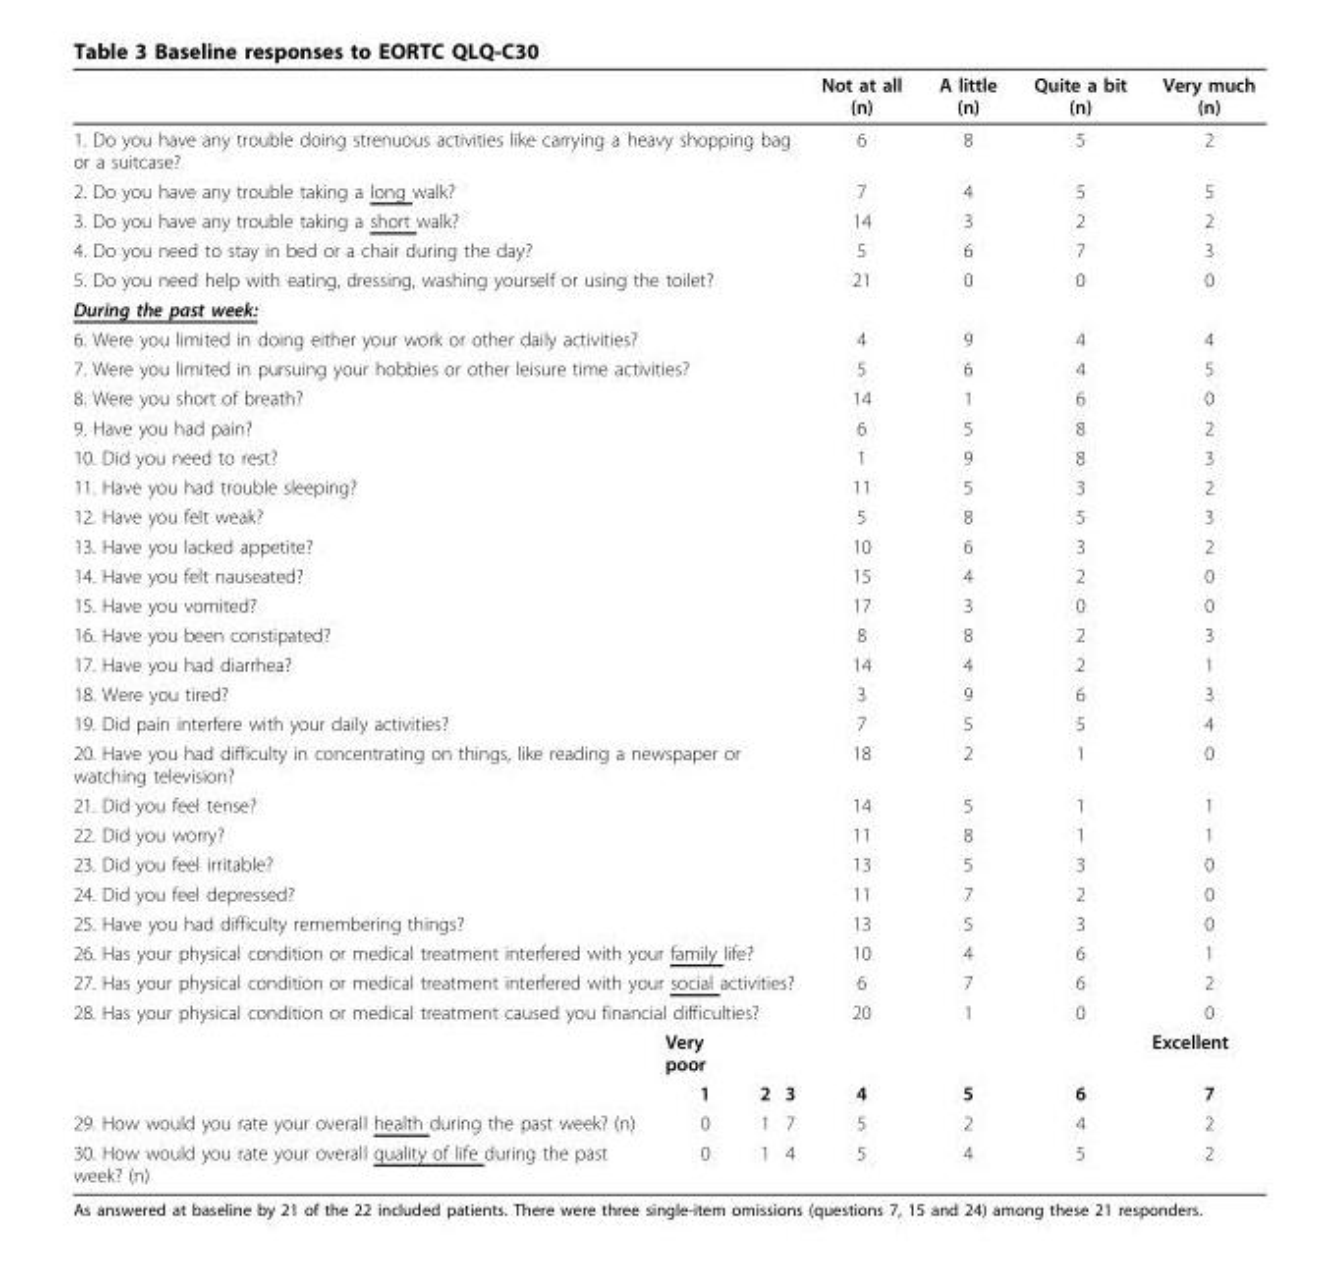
<table><thead><tr><td></td><td></td><td></td><td></td><td>Not at all (n)</td><td>A little (n)</td><td>Quite a bit (n)</td><td>Very much (n)</td></tr></thead><tbody><tr><td colspan="4">1. Do you have any trouble doing strenuous activities like carrying a heavy shopping bag or a suitcase?</td><td>6</td><td>8</td><td>5</td><td>2</td></tr><tr><td colspan="4">2. Do you have any trouble taking a long walk?</td><td>7</td><td>4</td><td>5</td><td>5</td></tr><tr><td colspan="4">3. Do you have any trouble taking a short walk?</td><td>14</td><td>3</td><td>2</td><td>2</td></tr><tr><td colspan="4">4. Do you need to stay in bed or a chair during the day?</td><td>5</td><td>6</td><td>7</td><td>3</td></tr><tr><td colspan="4">5. Do you need help with eating, dressing, washing yourself or using the toilet?</td><td>21</td><td>0</td><td>0</td><td>0</td></tr><tr><td colspan="8">During the past week:</td></tr><tr><td colspan="4">6. Were you limited in doing either your work or other daily activities?</td><td>4</td><td>9</td><td>4</td><td>4</td></tr><tr><td colspan="4">7. Were you limited in pursuing your hobbies or other leisure time activities?</td><td>5</td><td>6</td><td>4</td><td>5</td></tr><tr><td colspan="4">8. Were you short of breath?</td><td>14</td><td>1</td><td>6</td><td>0</td></tr><tr><td colspan="4">9. Have you had pain?</td><td>6</td><td>5</td><td>8</td><td>2</td></tr><tr><td colspan="4">10. Did you need to rest?</td><td>1</td><td>9</td><td>8</td><td>3</td></tr><tr><td colspan="4">11. Have you had trouble sleeping?</td><td>11</td><td>5</td><td>3</td><td>2</td></tr><tr><td colspan="4">12. Have you felt weak?</td><td>5</td><td>8</td><td>5</td><td>3</td></tr><tr><td colspan="4">13. Have you lacked appetite?</td><td>10</td><td>6</td><td>3</td><td>2</td></tr><tr><td colspan="4">14. Have you felt nauseated?</td><td>15</td><td>4</td><td>2</td><td>0</td></tr><tr><td colspan="4">15. Have you vomited?</td><td>17</td><td>3</td><td>0</td><td>0</td></tr><tr><td colspan="4">16. Have you been constipated?</td><td>8</td><td>8</td><td>2</td><td>3</td></tr><tr><td colspan="4">17. Have you had diarrhea?</td><td>14</td><td>4</td><td>2</td><td>1</td></tr><tr><td colspan="4">18. Were you tired?</td><td>3</td><td>9</td><td>6</td><td>3</td></tr><tr><td colspan="4">19. Did pain interfere with your daily activities?</td><td>7</td><td>5</td><td>5</td><td>4</td></tr><tr><td colspan="4">20. Have you had difficulty in concentrating on things, like reading a newspaper or watching television?</td><td>18</td><td>2</td><td>1</td><td>0</td></tr><tr><td colspan="4">21. Did you feel tense?</td><td>14</td><td>5</td><td>1</td><td>1</td></tr><tr><td colspan="4">22. Did you worry?</td><td>11</td><td>8</td><td>1</td><td>1</td></tr><tr><td colspan="4">23. Did you feel irritable?</td><td>13</td><td>5</td><td>3</td><td>0</td></tr><tr><td colspan="4">24. Did you feel depressed?</td><td>11</td><td>7</td><td>2</td><td>0</td></tr><tr><td colspan="4">25. Have you had difficulty remembering things?</td><td>13</td><td>5</td><td>3</td><td>0</td></tr><tr><td colspan="4">26. Has your physical condition or medical treatment interfered with your family life?</td><td>10</td><td>4</td><td>6</td><td>1</td></tr><tr><td colspan="4">27. Has your physical condition or medical treatment interfered with your social activities?</td><td>6</td><td>7</td><td>6</td><td>2</td></tr><tr><td colspan="4">28. Has your physical condition or medical treatment caused you financial difficulties?</td><td>20</td><td>1</td><td>0</td><td>0</td></tr><tr><td></td><td>Very poor</td><td></td><td></td><td></td><td></td><td></td><td>Excellent</td></tr><tr><td></td><td>1</td><td>2</td><td>3</td><td>4</td><td>5</td><td>6</td><td>7</td></tr><tr><td>29. How would you rate your overall health during the past week? (n)</td><td>0</td><td>1</td><td>7</td><td>5</td><td>2</td><td>4</td><td>2</td></tr><tr><td>30. How would you rate your overall quality of life during the past week? (n)</td><td>0</td><td>1</td><td>4</td><td>5</td><td>4</td><td>5</td><td>2</td></tr></tbody></table>